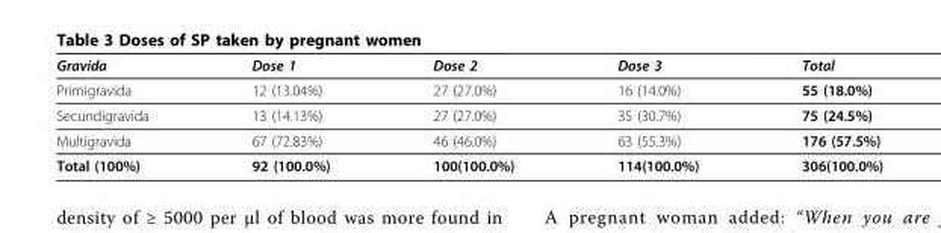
<table><thead><tr><td>Gravida</td><td>Dose 1</td><td>Dose 2</td><td>Dose 3</td><td>Total</td></tr></thead><tbody><tr><td>Primigravida</td><td>12 (13.04%)</td><td>27 (27.0%)</td><td>16 (14.0%)</td><td>55 (18.0%)</td></tr><tr><td>Secundigravida</td><td>13 (14.13%)</td><td>27 (27.0%)</td><td>35 (30.7%)</td><td>75 (24.5%)</td></tr><tr><td>Multigravida</td><td>67 (72.83%)</td><td>46 (46.0%)</td><td>63 (55.3%)</td><td>176 (57.5%)</td></tr><tr><td>Total (100%)</td><td>92 (100.0%)</td><td>100(100.0%)</td><td>114(100.0%)</td><td>306(100.0%)</td></tr></tbody></table>